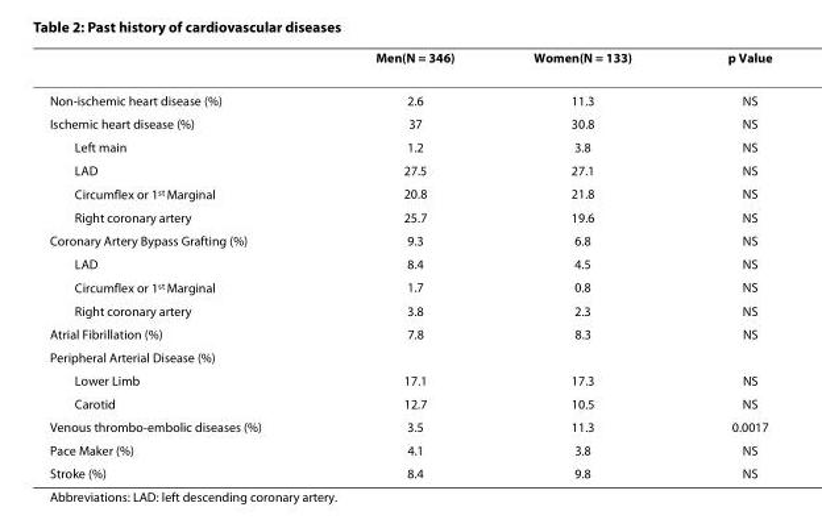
<table><thead><tr><td></td><td>Men(N = 346)</td><td>Women(N = 133)</td><td>p Value</td></tr></thead><tbody><tr><td>Non-ischemic heart disease (%)</td><td>2.6</td><td>11.3</td><td>NS</td></tr><tr><td>Ischemic heart disease (%)</td><td>37</td><td>30.8</td><td>NS</td></tr><tr><td>Left main</td><td>1.2</td><td>3.8</td><td>NS</td></tr><tr><td>LAD</td><td>27.5</td><td>27.1</td><td>NS</td></tr><tr><td>Circumflex or 1<sup>st</sup> Marginal</td><td>20.8</td><td>21.8</td><td>NS</td></tr><tr><td>Right coronary artery</td><td>25.7</td><td>19.6</td><td>NS</td></tr><tr><td>Coronary Artery Bypass Grafting (%)</td><td>9.3</td><td>6.8</td><td>NS</td></tr><tr><td>LAD</td><td>8.4</td><td>4.5</td><td>NS</td></tr><tr><td>Circumflex or 1<sup>st</sup> Marginal</td><td>1.7</td><td>0.8</td><td>NS</td></tr><tr><td>Right coronary artery</td><td>3.8</td><td>2.3</td><td>NS</td></tr><tr><td>Atrial Fibrillation (%)</td><td>7.8</td><td>8.3</td><td>NS</td></tr><tr><td colspan="4">Peripheral Arterial Disease (%)</td></tr><tr><td>Lower Limb</td><td>17.1</td><td>17.3</td><td>NS</td></tr><tr><td>Carotid</td><td>12.7</td><td>10.5</td><td>NS</td></tr><tr><td>Venous thrombo-embolic diseases (%)</td><td>3.5</td><td>11.3</td><td>0.0017</td></tr><tr><td>Pace Maker (%)</td><td>4.1</td><td>3.8</td><td>NS</td></tr><tr><td>Stroke (%)</td><td>8.4</td><td>9.8</td><td>NS</td></tr></tbody></table>